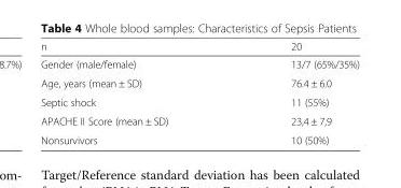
<table><thead><tr><td>n</td><td>20</td></tr></thead><tbody><tr><td>Gender (male/female)</td><td>13/7 (65%/35%)</td></tr><tr><td>Age, years (mean ± SD)</td><td>76.4 ± 6.0</td></tr><tr><td>Septic shock</td><td>11 (55%)</td></tr><tr><td>APACHE II Score (mean ± SD)</td><td>23,4 ± 7,9</td></tr><tr><td>Nonsurvivors</td><td>10 (50%)</td></tr></tbody></table>